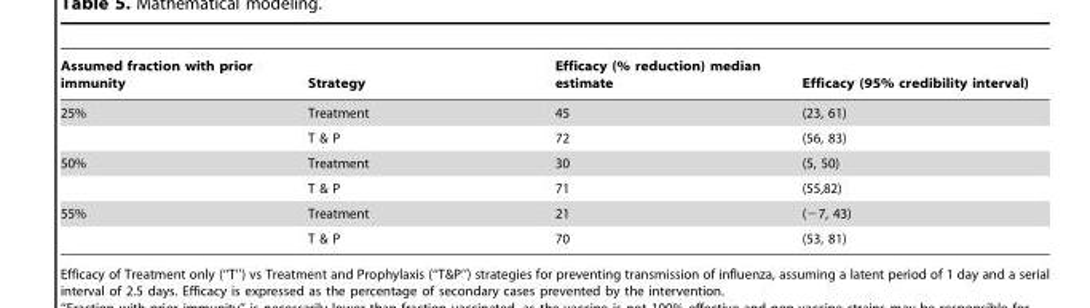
<table><thead><tr><td>Assumed fraction with prior immunity</td><td>Strategy</td><td>Efficacy (% reduction) median estimate</td><td>Efficacy (95% credibility interval)</td></tr></thead><tbody><tr><td rowspan="2">25%</td><td>Treatment</td><td>45</td><td>(23, 61)</td></tr><tr><td>T &amp; P</td><td>72</td><td>(56, 83)</td></tr><tr><td rowspan="2">50%</td><td>Treatment</td><td>30</td><td>(5, 50)</td></tr><tr><td>T &amp; P</td><td>71</td><td>(55,82)</td></tr><tr><td rowspan="2">55%</td><td>Treatment</td><td>21</td><td>(−7, 43)</td></tr><tr><td>T &amp; P</td><td>70</td><td>(53, 81)</td></tr></tbody></table>